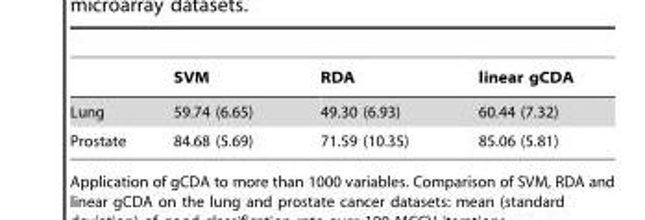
<table><thead><tr><td></td><td>SVM</td><td>RDA</td><td>linear gCDA</td></tr></thead><tbody><tr><td>Lung</td><td>59.74 (6.65)</td><td>49.30 (6.93)</td><td>60.44 (7.32)</td></tr><tr><td>Prostate</td><td>84.68 (5.69)</td><td>71.59 (10.35)</td><td>85.06 (5.81)</td></tr></tbody></table>